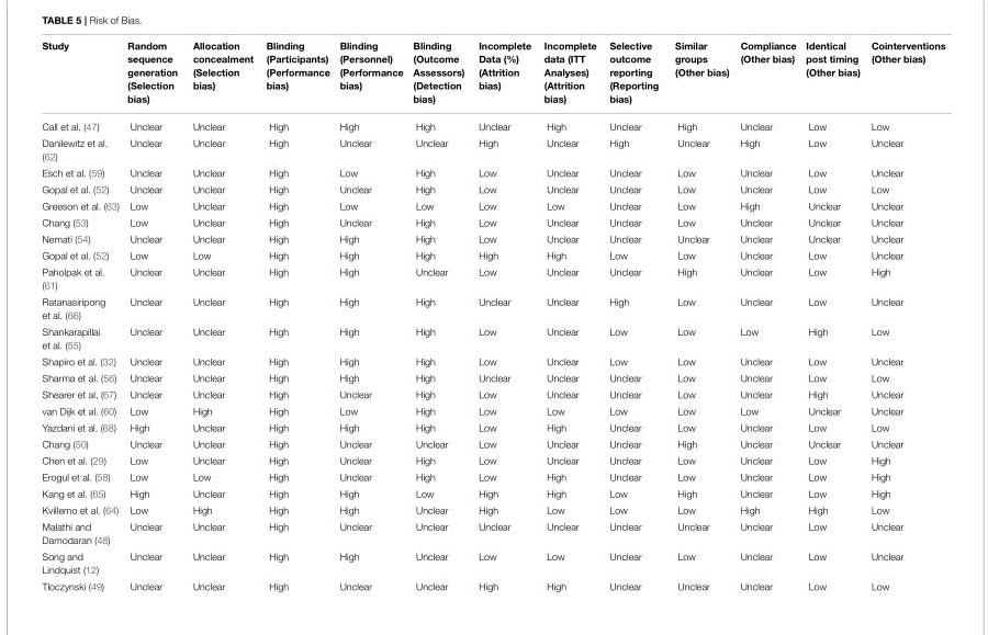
<table><thead><tr><td>Study</td><td>Random sequence generation (Selection bias)</td><td>Allocation concealment (Selection bias)</td><td>Blinding (Participants) (Performance bias)</td><td>Blinding (Personnel) (Performance bias)</td><td>Blinding (Outcome Assessors) (Detection bias)</td><td>Incomplete Data (%) (Attrition bias)</td><td>Incomplete data (ITT Analyses) (Attrition bias)</td><td>Selective outcome reporting (Reporting bias)</td><td>Similar groups (Other bias)</td><td>Compliance (Other bias)</td><td>Identical post timing (Other bias)</td><td>Cointerventions (Other bias)</td></tr></thead><tbody><tr><td>Call et al. (47)</td><td>Unclear</td><td>Unclear</td><td>High</td><td>High</td><td>High</td><td>Unclear</td><td>High</td><td>Unclear</td><td>High</td><td>Unclear</td><td>Low</td><td>Low</td></tr><tr><td>Danilewitz et al. (62)</td><td>Unclear</td><td>Unclear</td><td>High</td><td>Unclear</td><td>Unclear</td><td>High</td><td>Unclear</td><td>High</td><td>Unclear</td><td>High</td><td>Low</td><td>Unclear</td></tr><tr><td>Esch et al. (59)</td><td>Unclear</td><td>Unclear</td><td>High</td><td>Low</td><td>High</td><td>Low</td><td>Unclear</td><td>Unclear</td><td>Low</td><td>Unclear</td><td>Low</td><td>Unclear</td></tr><tr><td>Gopal et al. (52)</td><td>Unclear</td><td>Unclear</td><td>High</td><td>Unclear</td><td>High</td><td>Low</td><td>Unclear</td><td>Unclear</td><td>Low</td><td>Unclear</td><td>Low</td><td>Low</td></tr><tr><td>Greeson et al. (63)</td><td>Low</td><td>Unclear</td><td>High</td><td>Low</td><td>Low</td><td>Low</td><td>Low</td><td>Unclear</td><td>Low</td><td>High</td><td>Unclear</td><td>Unclear</td></tr><tr><td>Chang (53)</td><td>Low</td><td>Unclear</td><td>High</td><td>Unclear</td><td>High</td><td>Low</td><td>Unclear</td><td>Unclear</td><td>Low</td><td>Unclear</td><td>Unclear</td><td>Unclear</td></tr><tr><td>Nemati (54)</td><td>Unclear</td><td>Unclear</td><td>High</td><td>High</td><td>High</td><td>Low</td><td>Unclear</td><td>Unclear</td><td>Unclear</td><td>Unclear</td><td>Unclear</td><td>Unclear</td></tr><tr><td>Gopal et al. (52)</td><td>Low</td><td>Low</td><td>High</td><td>High</td><td>High</td><td>High</td><td>High</td><td>Low</td><td>Low</td><td>Unclear</td><td>Low</td><td>Unclear</td></tr><tr><td>Paholpak et al. (61)</td><td>Unclear</td><td>Unclear</td><td>High</td><td>High</td><td>Unclear</td><td>Low</td><td>Unclear</td><td>Unclear</td><td>High</td><td>Unclear</td><td>Low</td><td>High</td></tr><tr><td>Ratanasiripong et al. (66)</td><td>Unclear</td><td>Unclear</td><td>High</td><td>High</td><td>High</td><td>Unclear</td><td>Unclear</td><td>High</td><td>Low</td><td>Unclear</td><td>Low</td><td>Unclear</td></tr><tr><td>Shankarapillai et al. (55)</td><td>Unclear</td><td>Unclear</td><td>High</td><td>High</td><td>High</td><td>Low</td><td>Unclear</td><td>Low</td><td>Low</td><td>Low</td><td>High</td><td>Low</td></tr><tr><td>Shapiro et al. (32)</td><td>Unclear</td><td>Unclear</td><td>High</td><td>High</td><td>High</td><td>Low</td><td>Unclear</td><td>Low</td><td>Low</td><td>Unclear</td><td>Low</td><td>Unclear</td></tr><tr><td>Sharma et al. (56)</td><td>Unclear</td><td>Unclear</td><td>High</td><td>High</td><td>High</td><td>Unclear</td><td>Unclear</td><td>Unclear</td><td>Low</td><td>Unclear</td><td>Low</td><td>Low</td></tr><tr><td>Shearer et al, (67)</td><td>Unclear</td><td>Unclear</td><td>High</td><td>Unclear</td><td>High</td><td>Low</td><td>Unclear</td><td>Unclear</td><td>Low</td><td>Unclear</td><td>High</td><td>Unclear</td></tr><tr><td>van Dijk et al. (60)</td><td>Low</td><td>High</td><td>High</td><td>Low</td><td>High</td><td>Low</td><td>Low</td><td>Low</td><td>Low</td><td>Low</td><td>Unclear</td><td>Unclear</td></tr><tr><td>Yazdani et al. (68)</td><td>High</td><td>Unclear</td><td>High</td><td>High</td><td>High</td><td>Low</td><td>High</td><td>Unclear</td><td>Low</td><td>Unclear</td><td>Low</td><td>Low</td></tr><tr><td>Chang (50)</td><td>Unclear</td><td>Unclear</td><td>High</td><td>Unclear</td><td>Unclear</td><td>Low</td><td>Unclear</td><td>Unclear</td><td>High</td><td>Unclear</td><td>Unclear</td><td>Unclear</td></tr><tr><td>Chen et al. (29)</td><td>Low</td><td>Unclear</td><td>High</td><td>Unclear</td><td>High</td><td>Low</td><td>Unclear</td><td>Unclear</td><td>Low</td><td>Unclear</td><td>Low</td><td>High</td></tr><tr><td>Erogul et al. (58)</td><td>Low</td><td>Low</td><td>High</td><td>Unclear</td><td>High</td><td>Low</td><td>High</td><td>Unclear</td><td>Low</td><td>Unclear</td><td>Low</td><td>High</td></tr><tr><td>Kang et al. (65)</td><td>High</td><td>Unclear</td><td>High</td><td>High</td><td>Low</td><td>High</td><td>High</td><td>Low</td><td>High</td><td>Unclear</td><td>Low</td><td>High</td></tr><tr><td>Kvillemo et al. (64)</td><td>Low</td><td>High</td><td>High</td><td>High</td><td>Unclear</td><td>High</td><td>Low</td><td>Low</td><td>Low</td><td>High</td><td>High</td><td>Low</td></tr><tr><td>Malathi and Damodaran (48)</td><td>Unclear</td><td>Unclear</td><td>High</td><td>Unclear</td><td>Unclear</td><td>Unclear</td><td>Unclear</td><td>Unclear</td><td>Unclear</td><td>Unclear</td><td>Low</td><td>Unclear</td></tr><tr><td>Song and Lindquist (12)</td><td>Unclear</td><td>Unclear</td><td>High</td><td>High</td><td>Unclear</td><td>Low</td><td>Low</td><td>Unclear</td><td>Low</td><td>Unclear</td><td>Low</td><td>Unclear</td></tr><tr><td>Tloczynski (49)</td><td>Unclear</td><td>Unclear</td><td>High</td><td>Unclear</td><td>Unclear</td><td>High</td><td>High</td><td>Unclear</td><td>Unclear</td><td>Unclear</td><td>Low</td><td>Low</td></tr></tbody></table>